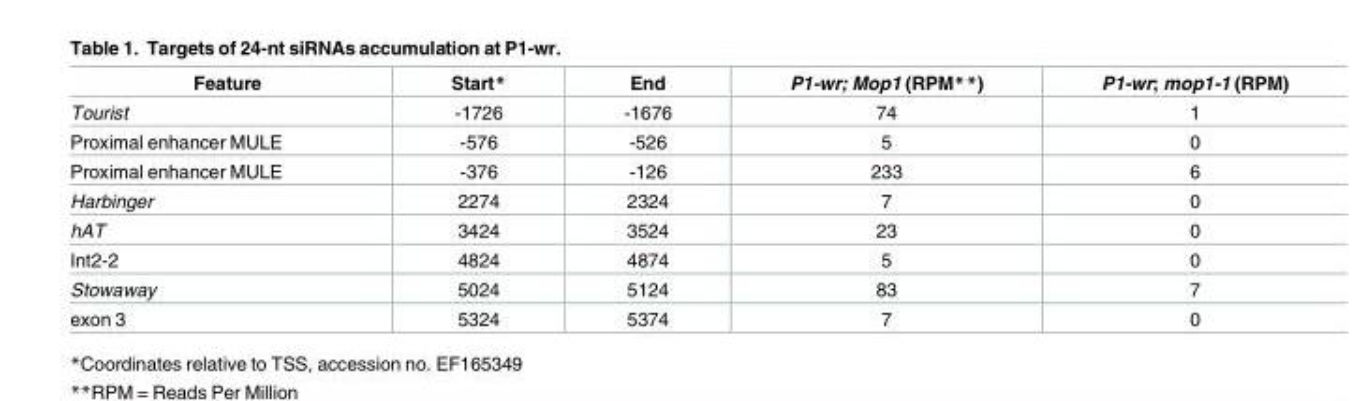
<table><thead><tr><td>Feature</td><td>Start*</td><td>End</td><td>P1-wr; Mop1 (RPM**)</td><td>P1-wr; mop1-1 (RPM)</td></tr></thead><tbody><tr><td>Tourist</td><td>-1726</td><td>-1676</td><td>74</td><td>1</td></tr><tr><td>Proximal enhancer MULE</td><td>-576</td><td>-526</td><td>5</td><td>0</td></tr><tr><td>Proximal enhancer MULE</td><td>-376</td><td>-126</td><td>233</td><td>6</td></tr><tr><td>Harbinger</td><td>2274</td><td>2324</td><td>7</td><td>0</td></tr><tr><td>hAT</td><td>3424</td><td>3524</td><td>23</td><td>0</td></tr><tr><td>Int2-2</td><td>4824</td><td>4874</td><td>5</td><td>0</td></tr><tr><td>Stowaway</td><td>5024</td><td>5124</td><td>83</td><td>7</td></tr><tr><td>exon 3</td><td>5324</td><td>5374</td><td>7</td><td>0</td></tr></tbody></table>